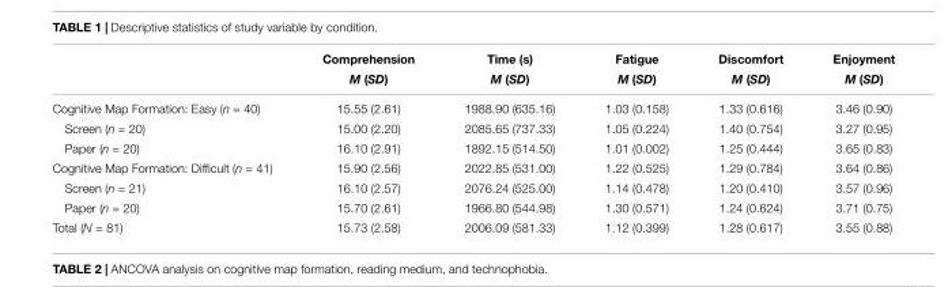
<table><thead><tr><td rowspan="2"></td><td rowspan="2">Comprehension M (SD)</td><td rowspan="2">Time (s) M (SD)</td><td rowspan="2">Fatigue M (SD)</td><td rowspan="2">Discomfort M (SD)</td><td rowspan="2">Enjoyment M (SD)</td></tr><tr></tr></thead><tbody><tr><td>Cognitive Map Formation: Easy (n = 40)</td><td>15.55 (2.61)</td><td>1988.90 (635.16)</td><td>1.03 (0.158)</td><td>1.33 (0.616)</td><td>3.46 (0.90)</td></tr><tr><td>Screen (n = 20)</td><td>15.00 (2.20)</td><td>2085.65 (737.33)</td><td>1.05 (0.224)</td><td>1.40 (0.754)</td><td>3.27 (0.95)</td></tr><tr><td>Paper (n = 20)</td><td>16.10 (2.91)</td><td>1892.15 (514.50)</td><td>1.01 (0.002)</td><td>1.25 (0.444)</td><td>3.65 (0.83)</td></tr><tr><td>Cognitive Map Formation: Difficult (n = 41)</td><td>15.90 (2.56)</td><td>2022.85 (531.00)</td><td>1.22 (0.525)</td><td>1.29 (0.784)</td><td>3.64 (0.86)</td></tr><tr><td>Screen (n = 21)</td><td>16.10 (2.57)</td><td>2076.24 (525.00)</td><td>1.14 (0.478)</td><td>1.20 (0.410)</td><td>3.57 (0.96)</td></tr><tr><td>Paper (n = 20)</td><td>15.70 (2.61)</td><td>1966.80 (544.98)</td><td>1.30 (0.571)</td><td>1.24 (0.624)</td><td>3.71 (0.75)</td></tr><tr><td>Total (N = 81)</td><td>15.73 (2.58)</td><td>2006.09 (581.33)</td><td>1.12 (0.399)</td><td>1.28 (0.617)</td><td>3.55 (0.88)</td></tr></tbody></table>